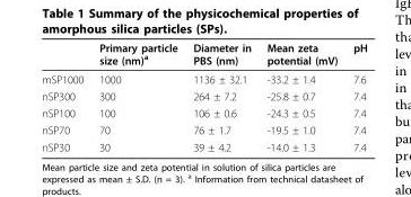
<table><thead><tr><td></td><td>Primary particle size (nm)<sup>a</sup></td><td>Diameter in PBS (nm)</td><td>Mean zeta potential (mV)</td><td>pH</td></tr></thead><tbody><tr><td>mSP1000</td><td>1000</td><td>1136 ± 32.1</td><td>-33.2 ± 1.4</td><td>7.6</td></tr><tr><td>nSP300</td><td>300</td><td>264 ± 7.2</td><td>-25.8 ± 0.7</td><td>7.4</td></tr><tr><td>nSP100</td><td>100</td><td>106 ± 0.6</td><td>-24.3 ± 0.5</td><td>7.4</td></tr><tr><td>nSP70</td><td>70</td><td>76 ± 1.7</td><td>-19.5 ± 1.0</td><td>7.4</td></tr><tr><td>nSP30</td><td>30</td><td>39 ± 4.2</td><td>-14.0 ± 1.3</td><td>7.4</td></tr></tbody></table>